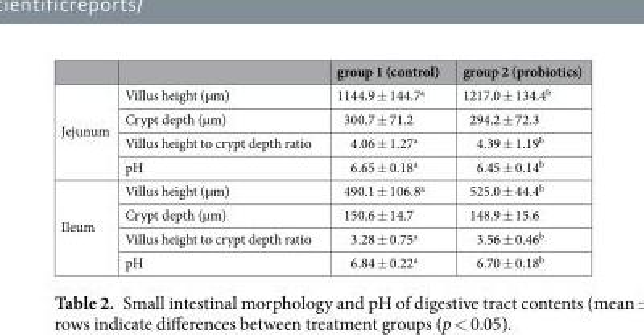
<table><thead><tr><td></td><td></td><td>group 1 (control)</td><td>group 2 (probiotics)</td></tr></thead><tbody><tr><td rowspan="4">Jejunum</td><td>Villus height (µm)</td><td>1144.9 ± 144.7<sup>a</sup></td><td>1217.0 ± 134.4<sup>b</sup></td></tr><tr><td>Crypt depth (µm)</td><td>300.7 ± 71.2</td><td>294.2 ± 72.3</td></tr><tr><td>Villus height to crypt depth ratio</td><td>4.06 ± 1.27<sup>a</sup></td><td>4.39 ± 1.19<sup>b</sup></td></tr><tr><td>pH</td><td>6.65 ± 0.18<sup>a</sup></td><td>6.45 ± 0.14<sup>b</sup></td></tr><tr><td rowspan="4">Ileum</td><td>Villus height (µm)</td><td>490.1 ± 106.8<sup>a</sup></td><td>525.0 ± 44.4<sup>b</sup></td></tr><tr><td>Crypt depth (µm)</td><td>150.6 ± 14.7</td><td>148.9 ± 15.6</td></tr><tr><td>Villus height to crypt depth ratio</td><td>3.28 ± 0.75<sup>a</sup></td><td>3.56 ± 0.46<sup>b</sup></td></tr><tr><td>pH</td><td>6.84 ± 0.22<sup>a</sup></td><td>6.70 ± 0.18<sup>b</sup></td></tr></tbody></table>